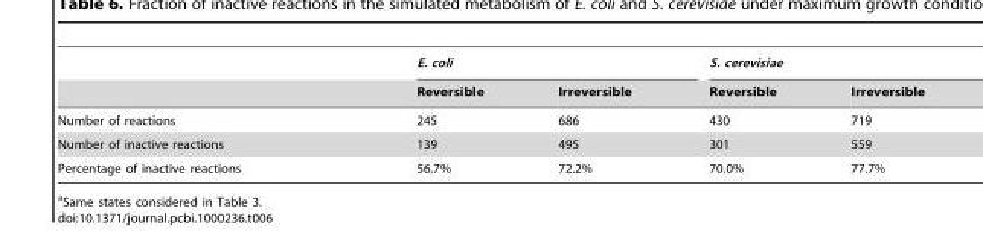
<table><thead><tr><td rowspan="2"></td><td colspan="2">E. coli</td><td colspan="2">S. cerevisiae</td></tr><tr><td>Reversible</td><td>Irreversible</td><td>Reversible</td><td>Irreversible</td></tr></thead><tbody><tr><td>Number of reactions</td><td>245</td><td>686</td><td>430</td><td>719</td></tr><tr><td>Number of inactive reactions</td><td>139</td><td>495</td><td>301</td><td>559</td></tr><tr><td>Percentage of inactive reactions</td><td>56.7%</td><td>72.2%</td><td>70.0%</td><td>77.7%</td></tr></tbody></table>